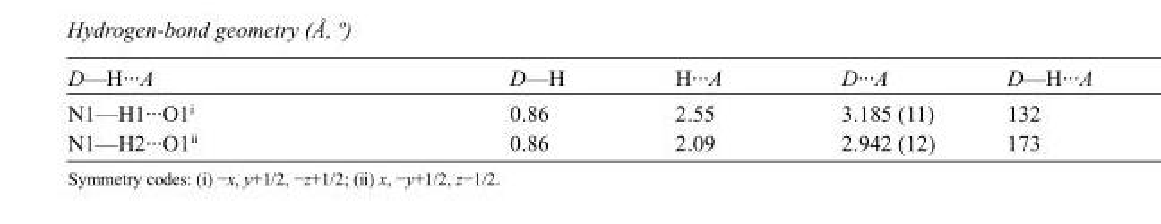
<table><tbody><tr><td>D—H···A</td><td>D—H</td><td>H···A</td><td>D···A</td><td>D—H···A</td></tr><tr><td>N1—H1···O1<sup>i</sup></td><td>0.86</td><td>2.55</td><td>3.185 (11)</td><td>132</td></tr><tr><td>N1—H2···O1<sup>ii</sup></td><td>0.86</td><td>2.09</td><td>2.942 (12)</td><td>173</td></tr></tbody></table>